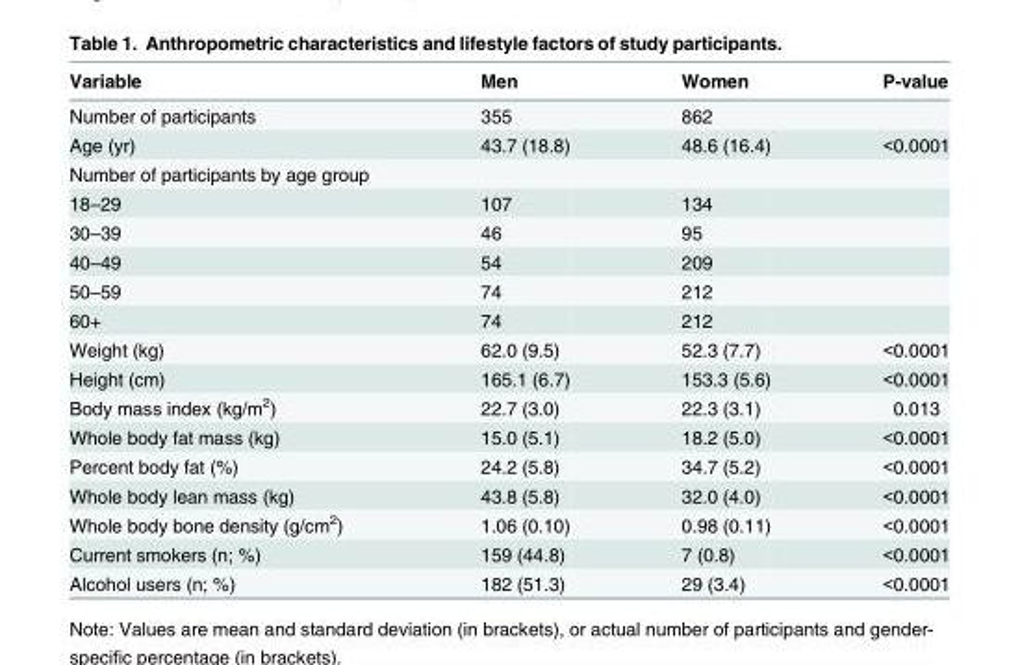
<table><thead><tr><td>Variable</td><td>Men</td><td>Women</td><td>P-value</td></tr></thead><tbody><tr><td>Number of participants</td><td>355</td><td>862</td><td></td></tr><tr><td>Age (yr)</td><td>43.7 (18.8)</td><td>48.6 (16.4)</td><td>&lt;0.0001</td></tr><tr><td colspan="4">Number of participants by age group</td></tr><tr><td>18–29</td><td>107</td><td>134</td><td></td></tr><tr><td>30–39</td><td>46</td><td>95</td><td></td></tr><tr><td>40–49</td><td>54</td><td>209</td><td></td></tr><tr><td>50–59</td><td>74</td><td>212</td><td></td></tr><tr><td>60+</td><td>74</td><td>212</td><td></td></tr><tr><td>Weight (kg)</td><td>62.0 (9.5)</td><td>52.3 (7.7)</td><td>&lt;0.0001</td></tr><tr><td>Height (cm)</td><td>165.1 (6.7)</td><td>153.3 (5.6)</td><td>&lt;0.0001</td></tr><tr><td>Body mass index (kg/m<sup>2</sup>)</td><td>22.7 (3.0)</td><td>22.3 (3.1)</td><td>0.013</td></tr><tr><td>Whole body fat mass (kg)</td><td>15.0 (5.1)</td><td>18.2 (5.0)</td><td>&lt;0.0001</td></tr><tr><td>Percent body fat (%)</td><td>24.2 (5.8)</td><td>34.7 (5.2)</td><td>&lt;0.0001</td></tr><tr><td>Whole body lean mass (kg)</td><td>43.8 (5.8)</td><td>32.0 (4.0)</td><td>&lt;0.0001</td></tr><tr><td>Whole body bone density (g/cm<sup>2</sup>)</td><td>1.06 (0.10)</td><td>0.98 (0.11)</td><td>&lt;0.0001</td></tr><tr><td>Current smokers (n; %)</td><td>159 (44.8)</td><td>7 (0.8)</td><td>&lt;0.0001</td></tr><tr><td>Alcohol users (n; %)</td><td>182 (51.3)</td><td>29 (3.4)</td><td>&lt;0.0001</td></tr></tbody></table>